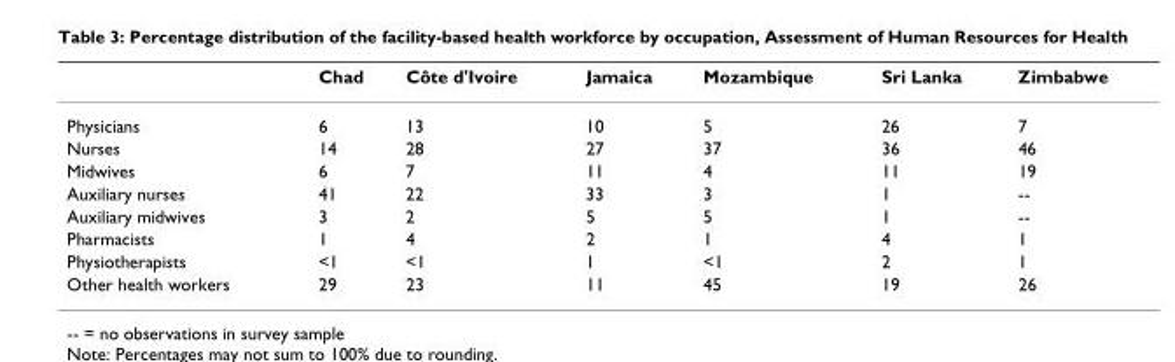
<table><thead><tr><td></td><td>Chad</td><td>Côte d&#x27;Ivoire</td><td>Jamaica</td><td>Mozambique</td><td>Sri Lanka</td><td>Zimbabwe</td></tr></thead><tbody><tr><td>Physicians</td><td>6</td><td>13</td><td>10</td><td>5</td><td>26</td><td>7</td></tr><tr><td>Nurses</td><td>14</td><td>28</td><td>27</td><td>37</td><td>36</td><td>46</td></tr><tr><td>Midwives</td><td>6</td><td>7</td><td>11</td><td>4</td><td>11</td><td>19</td></tr><tr><td>Auxiliary nurses</td><td>41</td><td>22</td><td>33</td><td>3</td><td>1</td><td>--</td></tr><tr><td>Auxiliary midwives</td><td>3</td><td>2</td><td>5</td><td>5</td><td>1</td><td>--</td></tr><tr><td>Pharmacists</td><td>1</td><td>4</td><td>2</td><td>1</td><td>4</td><td>1</td></tr><tr><td>Physiotherapists</td><td>&lt;1</td><td>&lt;1</td><td>1</td><td>&lt;1</td><td>2</td><td>1</td></tr><tr><td>Other health workers</td><td>29</td><td>23</td><td>11</td><td>45</td><td>19</td><td>26</td></tr></tbody></table>